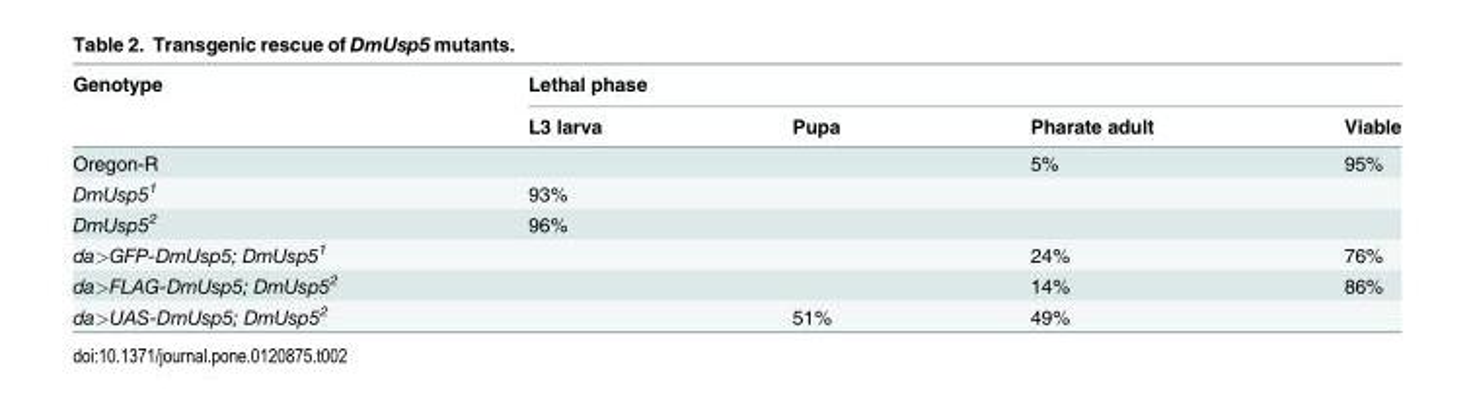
<table><thead><tr><td rowspan="2">Genotype</td><td colspan="4">Lethal phase</td></tr><tr><td>L3 larva</td><td>Pupa</td><td>Pharate adult</td><td>Viable</td></tr></thead><tbody><tr><td>Oregon-R</td><td></td><td></td><td>5%</td><td>95%</td></tr><tr><td>DmUsp5<sup>1</sup></td><td>93%</td><td></td><td></td><td></td></tr><tr><td>DmUsp5<sup>2</sup></td><td>96%</td><td></td><td></td><td></td></tr><tr><td>da&gt;GFP-DmUsp5; DmUsp5<sup>1</sup></td><td></td><td></td><td>24%</td><td>76%</td></tr><tr><td>da&gt;FLAG-DmUsp5; DmUsp5<sup>2</sup></td><td></td><td></td><td>14%</td><td>86%</td></tr><tr><td>da&gt;UAS-DmUsp5; DmUsp5<sup>2</sup></td><td></td><td>51%</td><td>49%</td><td></td></tr></tbody></table>